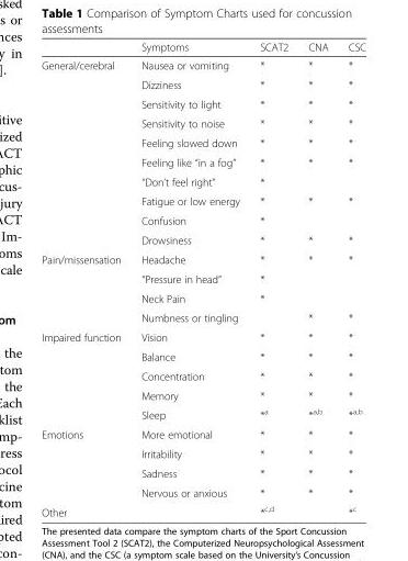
<table><thead><tr><td></td><td>Symptoms</td><td>SCAT2</td><td>CNA</td><td>CSC</td></tr></thead><tbody><tr><td rowspan="10">General/cerebral</td><td>Nausea or vomiting</td><td>*</td><td>*</td><td>*</td></tr><tr><td>Dizziness</td><td>*</td><td>*</td><td>*</td></tr><tr><td>Sensitivity to light</td><td>*</td><td>*</td><td>*</td></tr><tr><td>Sensitivity to noise</td><td>*</td><td>*</td><td>*</td></tr><tr><td>Feeling slowed down</td><td>*</td><td>*</td><td>*</td></tr><tr><td>Feeling like “in a fog”</td><td>*</td><td>*</td><td>*</td></tr><tr><td>“Don’t feel right”</td><td>*</td><td></td><td></td></tr><tr><td>Fatigue or low energy</td><td>*</td><td>*</td><td>*</td></tr><tr><td>Confusion</td><td>*</td><td></td><td></td></tr><tr><td>Drowsiness</td><td>*</td><td>*</td><td>*</td></tr><tr><td rowspan="4">Pain/missensation</td><td>Headache</td><td>*</td><td>*</td><td>*</td></tr><tr><td>“Pressure in head”</td><td>*</td><td></td><td></td></tr><tr><td>Neck Pain</td><td>*</td><td></td><td></td></tr><tr><td>Numbness or tingling</td><td></td><td>*</td><td>*</td></tr><tr><td rowspan="5">Impaired function</td><td>Vision</td><td>*</td><td>*</td><td>*</td></tr><tr><td>Balance</td><td>*</td><td>*</td><td>*</td></tr><tr><td>Concentration</td><td>*</td><td>*</td><td>*</td></tr><tr><td>Memory</td><td>*</td><td>*</td><td>*</td></tr><tr><td>Sleep</td><td>*<sup>a</sup></td><td>*<sup>a,b</sup></td><td>*<sup>a,b</sup></td></tr><tr><td rowspan="4">Emotions</td><td>More emotional</td><td>*</td><td>*</td><td>*</td></tr><tr><td>Irritability</td><td>*</td><td>*</td><td>*</td></tr><tr><td>Sadness</td><td>*</td><td>*</td><td>*</td></tr><tr><td>Nervous or anxious</td><td>*</td><td>*</td><td>*</td></tr><tr><td>Other</td><td></td><td>*<sup>c,d</sup></td><td></td><td>*<sup>c</sup></td></tr></tbody></table>